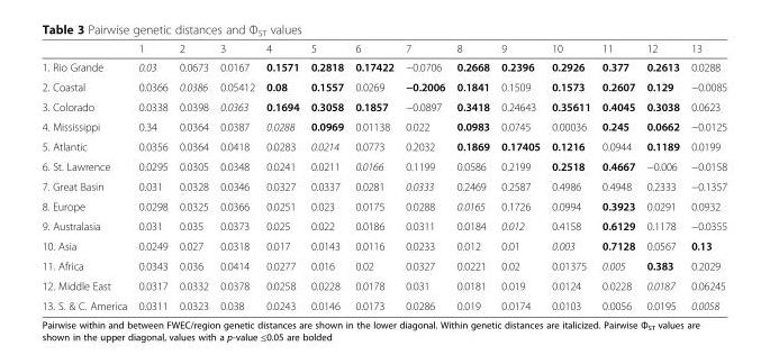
<table><thead><tr><td></td><td>1</td><td>2</td><td>3</td><td>4</td><td>5</td><td>6</td><td>7</td><td>8</td><td>9</td><td>10</td><td>11</td><td>12</td><td>13</td></tr></thead><tbody><tr><td>1. Rio Grande</td><td>0.03</td><td>0.0673</td><td>0.0167</td><td>0.1571</td><td>0.2818</td><td>0.17422</td><td>−0.0706</td><td>0.2668</td><td>0.2396</td><td>0.2926</td><td>0.377</td><td>0.2613</td><td>0.0288</td></tr><tr><td>2. Coastal</td><td>0.0366</td><td>0.0386</td><td>0.05412</td><td>0.08</td><td>0.1557</td><td>0.0269</td><td>−0.2006</td><td>0.1841</td><td>0.1509</td><td>0.1573</td><td>0.2607</td><td>0.129</td><td>−0.0085</td></tr><tr><td>3. Colorado</td><td>0.0338</td><td>0.0398</td><td>0.0363</td><td>0.1694</td><td>0.3058</td><td>0.1857</td><td>−0.0897</td><td>0.3418</td><td>0.24643</td><td>0.35611</td><td>0.4045</td><td>0.3038</td><td>0.0623</td></tr><tr><td>4. Mississippi</td><td>0.34</td><td>0.0364</td><td>0.0387</td><td>0.0288</td><td>0.0969</td><td>0.01138</td><td>0.022</td><td>0.0983</td><td>0.0745</td><td>0.00036</td><td>0.245</td><td>0.0662</td><td>−0.0125</td></tr><tr><td>5. Atlantic</td><td>0.0356</td><td>0.0364</td><td>0.0418</td><td>0.0283</td><td>0.0214</td><td>0.0773</td><td>0.2032</td><td>0.1869</td><td>0.17405</td><td>0.1216</td><td>0.0944</td><td>0.1189</td><td>0.0199</td></tr><tr><td>6. St. Lawrence</td><td>0.0295</td><td>0.0305</td><td>0.0348</td><td>0.0241</td><td>0.0211</td><td>0.0166</td><td>0.1199</td><td>0.0586</td><td>0.2199</td><td>0.2518</td><td>0.4667</td><td>−0.006</td><td>−0.0158</td></tr><tr><td>7. Great Basin</td><td>0.031</td><td>0.0328</td><td>0.0346</td><td>0.0327</td><td>0.0337</td><td>0.0281</td><td>0.0333</td><td>0.2469</td><td>0.2587</td><td>0.4986</td><td>0.4948</td><td>0.2333</td><td>−0.1357</td></tr><tr><td>8. Europe</td><td>0.0298</td><td>0.0325</td><td>0.0366</td><td>0.0251</td><td>0.023</td><td>0.0175</td><td>0.0288</td><td>0.0165</td><td>0.1726</td><td>0.0994</td><td>0.3923</td><td>0.0291</td><td>0.0932</td></tr><tr><td>9. Australasia</td><td>0.031</td><td>0.035</td><td>0.0373</td><td>0.025</td><td>0.022</td><td>0.0186</td><td>0.0311</td><td>0.0184</td><td>0.012</td><td>0.4158</td><td>0.6129</td><td>0.1178</td><td>−0.0355</td></tr><tr><td>10. Asia</td><td>0.0249</td><td>0.027</td><td>0.0318</td><td>0.017</td><td>0.0143</td><td>0.0116</td><td>0.0233</td><td>0.012</td><td>0.01</td><td>0.003</td><td>0.7128</td><td>0.0567</td><td>0.13</td></tr><tr><td>11. Africa</td><td>0.0343</td><td>0.036</td><td>0.0414</td><td>0.0277</td><td>0.016</td><td>0.02</td><td>0.0327</td><td>0.0221</td><td>0.02</td><td>0.01375</td><td>0.005</td><td>0.383</td><td>0.2029</td></tr><tr><td>12. Middle East</td><td>0.0317</td><td>0.0332</td><td>0.0378</td><td>0.0258</td><td>0.0228</td><td>0.0178</td><td>0.031</td><td>0.0181</td><td>0.019</td><td>0.0124</td><td>0.0228</td><td>0.0187</td><td>0.06245</td></tr><tr><td>13. S. &amp; C. America</td><td>0.0311</td><td>0.0323</td><td>0.038</td><td>0.0243</td><td>0.0146</td><td>0.0173</td><td>0.0286</td><td>0.019</td><td>0.0174</td><td>0.0103</td><td>0.0056</td><td>0.0195</td><td>0.0058</td></tr></tbody></table>